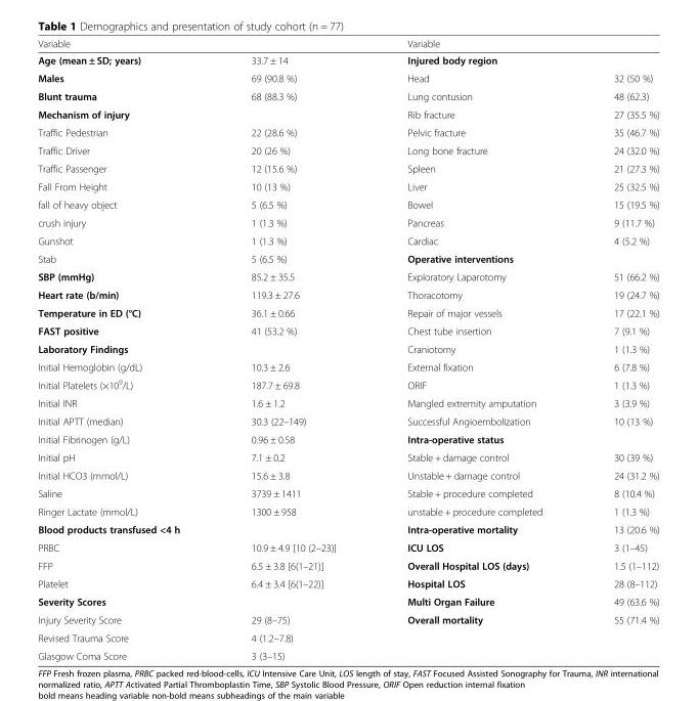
<table><thead><tr><td>Variable</td><td></td><td>Variable</td><td></td></tr></thead><tbody><tr><td>Age (mean ± SD; years)</td><td>33.7 ± 14</td><td>Injured body region</td><td></td></tr><tr><td>Males</td><td>69 (90.8 %)</td><td>Head</td><td>32 (50 %)</td></tr><tr><td>Blunt trauma</td><td>68 (88.3 %)</td><td>Lung contusion</td><td>48 (62.3)</td></tr><tr><td>Mechanism of injury</td><td></td><td>Rib fracture</td><td>27 (35.5 %)</td></tr><tr><td>Traffic Pedestrian</td><td>22 (28.6 %)</td><td>Pelvic fracture</td><td>35 (46.7 %)</td></tr><tr><td>Traffic Driver</td><td>20 (26 %)</td><td>Long bone fracture</td><td>24 (32.0 %)</td></tr><tr><td>Traffic Passenger</td><td>12 (15.6 %)</td><td>Spleen</td><td>21 (27.3 %)</td></tr><tr><td>Fall From Height</td><td>10 (13 %)</td><td>Liver</td><td>25 (32.5 %)</td></tr><tr><td>fall of heavy object</td><td>5 (6.5 %)</td><td>Bowel</td><td>15 (19.5 %)</td></tr><tr><td>crush injury</td><td>1 (1.3 %)</td><td>Pancreas</td><td>9 (11.7 %)</td></tr><tr><td>Gunshot</td><td>1 (1.3 %)</td><td>Cardiac</td><td>4 (5.2 %)</td></tr><tr><td>Stab</td><td>5 (6.5 %)</td><td>Operative interventions</td><td></td></tr><tr><td>SBP (mmHg)</td><td>85.2 ± 35.5</td><td>Exploratory Laparotomy</td><td>51 (66.2 %)</td></tr><tr><td>Heart rate (b/min)</td><td>119.3 ± 27.6</td><td>Thoracotomy</td><td>19 (24.7 %)</td></tr><tr><td>Temperature in ED (°C)</td><td>36.1 ± 0.66</td><td>Repair of major vessels</td><td>17 (22.1 %)</td></tr><tr><td>FAST positive</td><td>41 (53.2 %)</td><td>Chest tube insertion</td><td>7 (9.1 %)</td></tr><tr><td>Laboratory Findings</td><td></td><td>Craniotomy</td><td>1 (1.3 %)</td></tr><tr><td>Initial Hemoglobin (g/dL)</td><td>10.3 ± 2.6</td><td>External fixation</td><td>6 (7.8 %)</td></tr><tr><td>Initial Platelets (×10<sup>9</sup>/L)</td><td>187.7 ± 69.8</td><td>ORIF</td><td>1 (1.3 %)</td></tr><tr><td>Initial INR</td><td>1.6 ± 1.2</td><td>Mangled extremity amputation</td><td>3 (3.9 %)</td></tr><tr><td>Initial APTT (median)</td><td>30.3 (22–149)</td><td>Successful Angioembolization</td><td>10 (13 %)</td></tr><tr><td>Initial Fibrinogen (g/L)</td><td>0.96 ± 0.58</td><td>Intra-operative status</td><td></td></tr><tr><td>Initial pH</td><td>7.1 ± 0.2</td><td>Stable + damage control</td><td>30 (39 %)</td></tr><tr><td>Initial HCO3 (mmol/L)</td><td>15.6 ± 3.8</td><td>Unstable + damage control</td><td>24 (31.2 %)</td></tr><tr><td>Saline</td><td>3739 ± 1411</td><td>Stable + procedure completed</td><td>8 (10.4 %)</td></tr><tr><td>Ringer Lactate (mmol/L)</td><td>1300 ± 958</td><td>unstable + procedure completed</td><td>1 (1.3 %)</td></tr><tr><td>Blood products transfused &lt;4 h</td><td></td><td>Intra-operative mortality</td><td>13 (20.6 %)</td></tr><tr><td>PRBC</td><td>10.9 ± 4.9 [10 (2–23)]</td><td>ICU LOS</td><td>3 (1–45)</td></tr><tr><td>FFP</td><td>6.5 ± 3.8 [6(1–21)]</td><td>Overall Hospital LOS (days)</td><td>1.5 (1–112)</td></tr><tr><td>Platelet</td><td>6.4 ± 3.4 [6(1–22)]</td><td>Hospital LOS</td><td>28 (8–112)</td></tr><tr><td>Severity Scores</td><td></td><td>Multi Organ Failure</td><td>49 (63.6 %)</td></tr><tr><td>Injury Severity Score</td><td>29 (8–75)</td><td>Overall mortality</td><td>55 (71.4 %)</td></tr><tr><td>Revised Trauma Score</td><td>4 (1.2–7.8)</td><td></td><td></td></tr><tr><td>Glasgow Coma Score</td><td>3 (3–15)</td><td></td><td></td></tr></tbody></table>